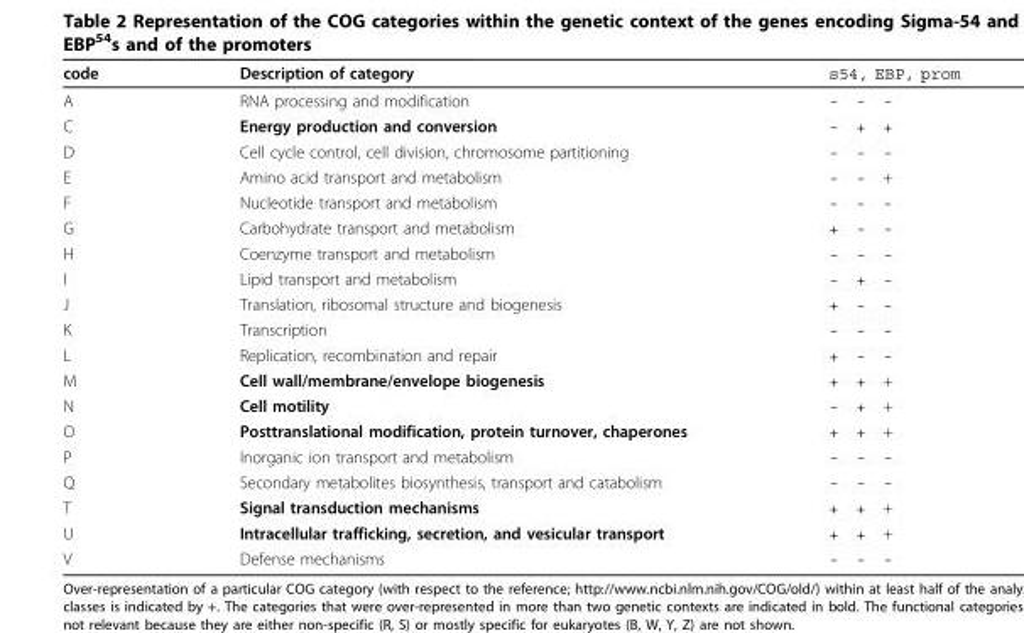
<table><thead><tr><td>code</td><td>Description of category</td><td>s54, EBP, prom</td></tr></thead><tbody><tr><td>A</td><td>RNA processing and modification</td><td>- - -</td></tr><tr><td>C</td><td>Energy production and conversion</td><td>- + +</td></tr><tr><td>D</td><td>Cell cycle control, cell division, chromosome partitioning</td><td>- - -</td></tr><tr><td>E</td><td>Amino acid transport and metabolism</td><td>- - +</td></tr><tr><td>F</td><td>Nucleotide transport and metabolism</td><td>- - -</td></tr><tr><td>G</td><td>Carbohydrate transport and metabolism</td><td>+ - -</td></tr><tr><td>H</td><td>Coenzyme transport and metabolism</td><td>- - -</td></tr><tr><td>I</td><td>Lipid transport and metabolism</td><td>- + -</td></tr><tr><td>J</td><td>Translation, ribosomal structure and biogenesis</td><td>+ - -</td></tr><tr><td>K</td><td>Transcription</td><td>- - -</td></tr><tr><td>L</td><td>Replication, recombination and repair</td><td>+ - -</td></tr><tr><td>M</td><td>Cell wall/membrane/envelope biogenesis</td><td>+ + +</td></tr><tr><td>N</td><td>Cell motility</td><td>- + +</td></tr><tr><td>O</td><td>Posttranslational modification, protein turnover, chaperones</td><td>+ + +</td></tr><tr><td>P</td><td>Inorganic ion transport and metabolism</td><td>- - -</td></tr><tr><td>Q</td><td>Secondary metabolites biosynthesis, transport and catabolism</td><td>- - -</td></tr><tr><td>T</td><td>Signal transduction mechanisms</td><td>+ + +</td></tr><tr><td>U</td><td>Intracellular trafficking, secretion, and vesicular transport</td><td>+ + +</td></tr><tr><td>V</td><td>Defense mechanisms</td><td>- - -</td></tr></tbody></table>